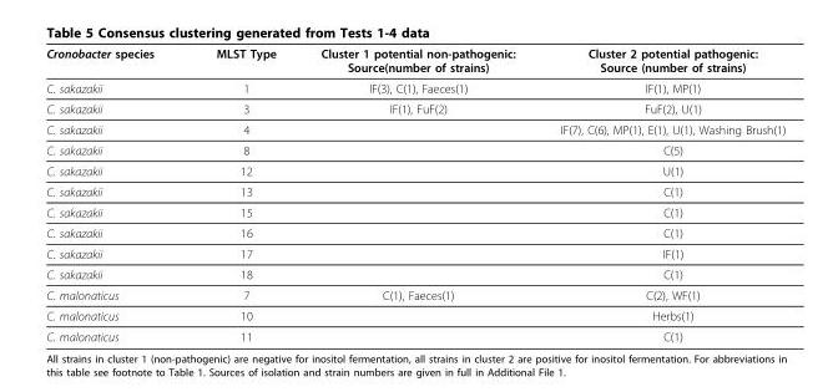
<table><thead><tr><td>Cronobacter species</td><td>MLST Type</td><td>Cluster 1 potential non-pathogenic: Source(number of strains)</td><td>Cluster 2 potential pathogenic: Source (number of strains)</td></tr></thead><tbody><tr><td>C. sakazakii</td><td>1</td><td>IF(3), C(1), Faeces(1)</td><td>IF(1), MP(1)</td></tr><tr><td>C. sakazakii</td><td>3</td><td>IF(1), FuF(2)</td><td>FuF(2), U(1)</td></tr><tr><td>C. sakazakii</td><td>4</td><td></td><td>IF(7), C(6), MP(1), E(1), U(1), Washing Brush(1)</td></tr><tr><td>C. sakazakii</td><td>8</td><td></td><td>C(5)</td></tr><tr><td>C. sakazakii</td><td>12</td><td></td><td>U(1)</td></tr><tr><td>C. sakazakii</td><td>13</td><td></td><td>C(1)</td></tr><tr><td>C. sakazakii</td><td>15</td><td></td><td>C(1)</td></tr><tr><td>C. sakazakii</td><td>16</td><td></td><td>C(1)</td></tr><tr><td>C. sakazakii</td><td>17</td><td></td><td>IF(1)</td></tr><tr><td>C. sakazakii</td><td>18</td><td></td><td>C(1)</td></tr><tr><td>C. malonaticus</td><td>7</td><td>C(1), Faeces(1)</td><td>C(2), WF(1)</td></tr><tr><td>C. malonaticus</td><td>10</td><td></td><td>Herbs(1)</td></tr><tr><td>C. malonaticus</td><td>11</td><td></td><td>C(1)</td></tr></tbody></table>